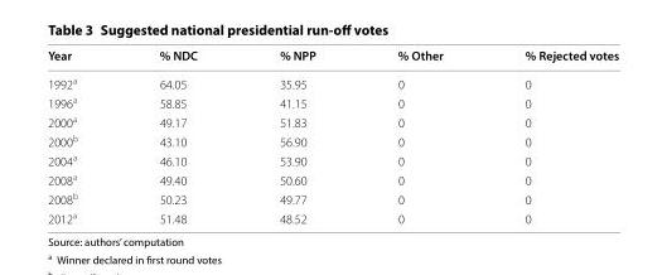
<table><thead><tr><td>Year</td><td>% NDC</td><td>% NPP</td><td>% Other</td><td>% Rejected votes</td></tr></thead><tbody><tr><td>1992<sup>a</sup></td><td>64.05</td><td>35.95</td><td>0</td><td>0</td></tr><tr><td>1996<sup>a</sup></td><td>58.85</td><td>41.15</td><td>0</td><td>0</td></tr><tr><td>2000<sup>a</sup></td><td>49.17</td><td>51.83</td><td>0</td><td>0</td></tr><tr><td>2000<sup>b</sup></td><td>43.10</td><td>56.90</td><td>0</td><td>0</td></tr><tr><td>2004<sup>a</sup></td><td>46.10</td><td>53.90</td><td>0</td><td>0</td></tr><tr><td>2008<sup>a</sup></td><td>49.40</td><td>50.60</td><td>0</td><td>0</td></tr><tr><td>2008<sup>b</sup></td><td>50.23</td><td>49.77</td><td>0</td><td>0</td></tr><tr><td>2012<sup>a</sup></td><td>51.48</td><td>48.52</td><td>0</td><td>0</td></tr></tbody></table>